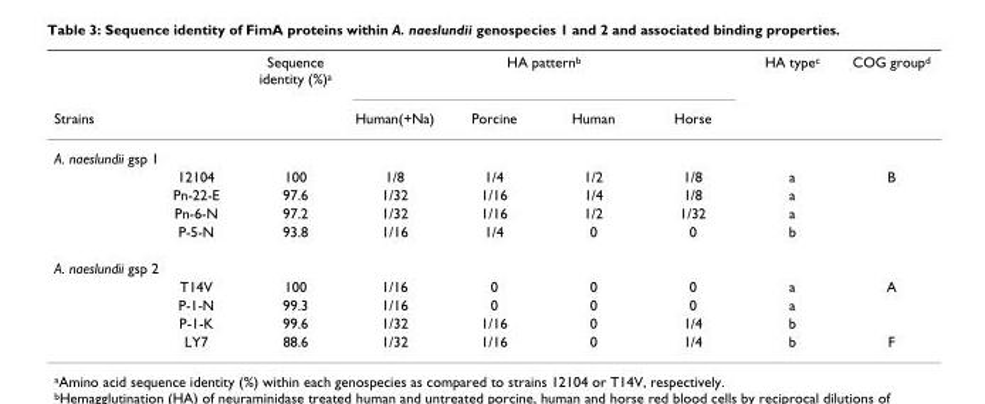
<table><thead><tr><td rowspan="2">Strains</td><td rowspan="2"></td><td rowspan="2">Sequence identity (%)a</td><td colspan="4">HA patternb</td><td rowspan="2">HA typec</td><td rowspan="2">COG groupd</td></tr><tr><td>Human(+Na)</td><td>Porcine</td><td>Human</td><td>Horse</td></tr></thead><tbody><tr><td colspan="9">A. naeslundii gsp 1</td></tr><tr><td></td><td>12104</td><td>100</td><td>1/8</td><td>1/4</td><td>1/2</td><td>1/8</td><td>a</td><td>B</td></tr><tr><td></td><td>Pn-22-E</td><td>97.6</td><td>1/32</td><td>1/16</td><td>1/4</td><td>1/8</td><td>a</td><td></td></tr><tr><td></td><td>Pn-6-N</td><td>97.2</td><td>1/32</td><td>1/16</td><td>1/2</td><td>1/32</td><td>a</td><td></td></tr><tr><td></td><td>P-5-N</td><td>93.8</td><td>1/16</td><td>1/4</td><td>0</td><td>0</td><td>b</td><td></td></tr><tr><td colspan="9">A. naeslundii gsp 2</td></tr><tr><td></td><td>T14V</td><td>100</td><td>1/16</td><td>0</td><td>0</td><td>0</td><td>a</td><td>A</td></tr><tr><td></td><td>P-1-N</td><td>99.3</td><td>1/16</td><td>0</td><td>0</td><td>0</td><td>a</td><td></td></tr><tr><td></td><td>P-1-K</td><td>99.6</td><td>1/32</td><td>1/16</td><td>0</td><td>1/4</td><td>b</td><td></td></tr><tr><td></td><td>LY7</td><td>88.6</td><td>1/32</td><td>1/16</td><td>0</td><td>1/4</td><td>b</td><td>F</td></tr></tbody></table>